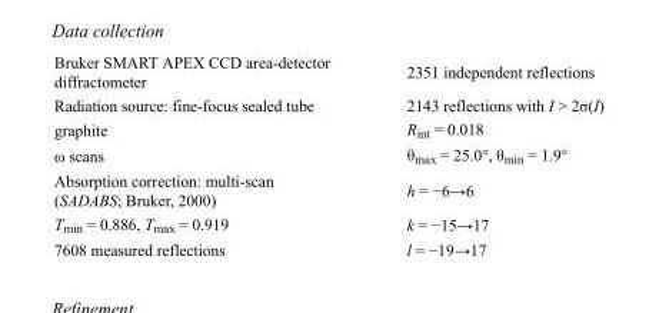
<table><tbody><tr><td>Bruker SMART APEX CCD area-detector diffractometer</td><td>2351 independent reflections</td></tr><tr><td>Radiation source: fine-focus sealed tube</td><td>2143 reflections with I &gt; 2σ(I)</td></tr><tr><td>graphite</td><td>R<sub>int</sub> = 0.018</td></tr><tr><td>ω scans</td><td>θ<sub>max</sub> = 25.0°, θ<sub>min</sub> = 1.9°</td></tr><tr><td>Absorption correction: multi-scan (SADABS; Bruker, 2000)</td><td>h = −6→6</td></tr><tr><td>T<sub>min</sub> = 0.886, T<sub>max</sub> = 0.919</td><td>k = −15→17</td></tr><tr><td>7608 measured reflections</td><td>l = −19→17</td></tr></tbody></table>